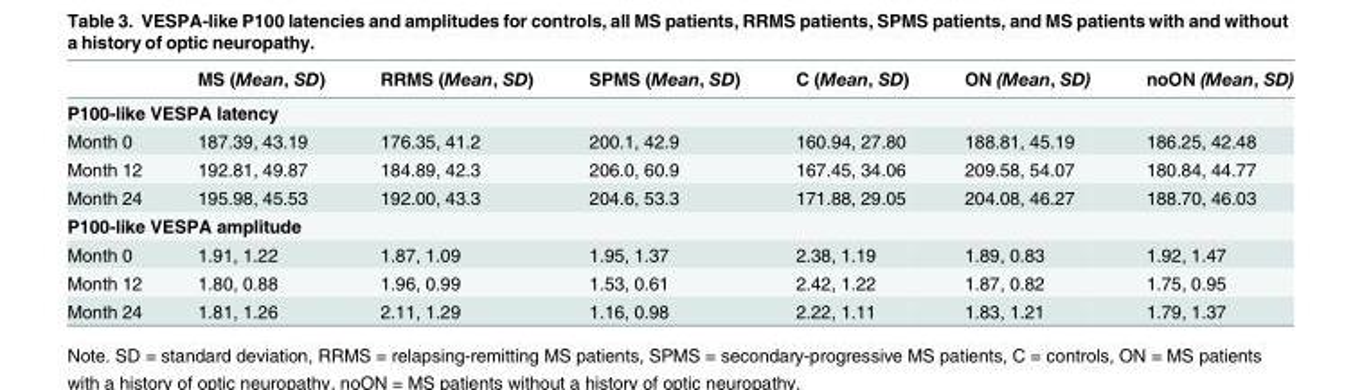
<table><thead><tr><td></td><td>MS (Mean, SD)</td><td>RRMS (Mean, SD)</td><td>SPMS (Mean, SD)</td><td>C (Mean, SD)</td><td>ON (Mean, SD)</td><td>noON (Mean, SD)</td></tr></thead><tbody><tr><td colspan="7">P100-like VESPA latency</td></tr><tr><td>Month 0</td><td>187.39, 43.19</td><td>176.35, 41.2</td><td>200.1, 42.9</td><td>160.94, 27.80</td><td>188.81, 45.19</td><td>186.25, 42.48</td></tr><tr><td>Month 12</td><td>192.81, 49.87</td><td>184.89, 42.3</td><td>206.0, 60.9</td><td>167.45, 34.06</td><td>209.58, 54.07</td><td>180.84, 44.77</td></tr><tr><td>Month 24</td><td>195.98, 45.53</td><td>192.00, 43.3</td><td>204.6, 53.3</td><td>171.88, 29.05</td><td>204.08, 46.27</td><td>188.70, 46.03</td></tr><tr><td colspan="7">P100-like VESPA amplitude</td></tr><tr><td>Month 0</td><td>1.91, 1.22</td><td>1.87, 1.09</td><td>1.95, 1.37</td><td>2.38, 1.19</td><td>1.89, 0.83</td><td>1.92, 1.47</td></tr><tr><td>Month 12</td><td>1.80, 0.88</td><td>1.96, 0.99</td><td>1.53, 0.61</td><td>2.42, 1.22</td><td>1.87, 0.82</td><td>1.75, 0.95</td></tr><tr><td>Month 24</td><td>1.81, 1.26</td><td>2.11, 1.29</td><td>1.16, 0.98</td><td>2.22, 1.11</td><td>1.83, 1.21</td><td>1.79, 1.37</td></tr></tbody></table>